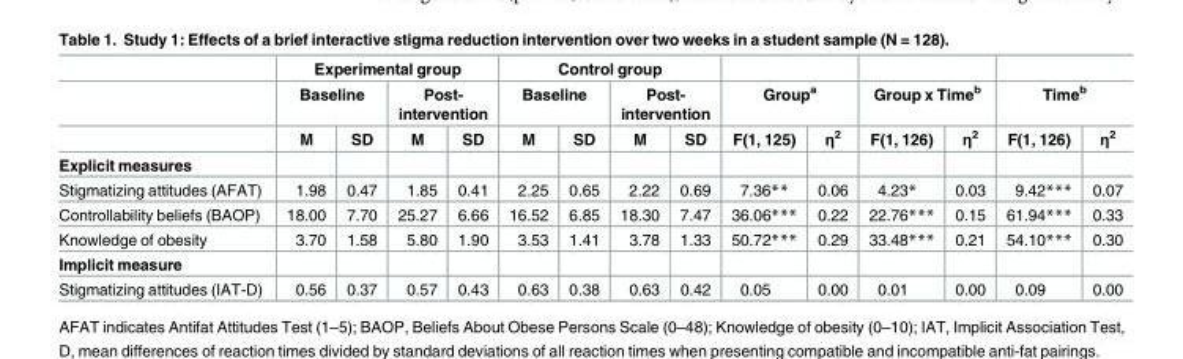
<table><thead><tr><td rowspan="3"></td><td colspan="4">Experimental group</td><td colspan="4">Control group</td><td></td><td></td><td></td><td></td><td></td><td></td></tr><tr><td colspan="2">Baseline</td><td colspan="2">Post- intervention</td><td colspan="2">Baseline</td><td colspan="2">Post- intervention</td><td colspan="2">Group<sup>a</sup></td><td colspan="2">Group x Time<sup>b</sup></td><td colspan="2">Time<sup>b</sup></td></tr><tr><td>M</td><td>SD</td><td>M</td><td>SD</td><td>M</td><td>SD</td><td>M</td><td>SD</td><td>F(1, 125)</td><td>η<sup>2</sup></td><td>F(1, 126)</td><td>η<sup>2</sup></td><td>F(1, 126)</td><td>η<sup>2</sup></td></tr></thead><tbody><tr><td colspan="15">Explicit measures</td></tr><tr><td>Stigmatizing attitudes (AFAT)</td><td>1.98</td><td>0.47</td><td>1.85</td><td>0.41</td><td>2.25</td><td>0.65</td><td>2.22</td><td>0.69</td><td>7.36**</td><td>0.06</td><td>4.23*</td><td>0.03</td><td>9.42***</td><td>0.07</td></tr><tr><td>Controllability beliefs (BAOP)</td><td>18.00</td><td>7.70</td><td>25.27</td><td>6.66</td><td>16.52</td><td>6.85</td><td>18.30</td><td>7.47</td><td>36.06***</td><td>0.22</td><td>22.76***</td><td>0.15</td><td>61.94***</td><td>0.33</td></tr><tr><td>Knowledge of obesity</td><td>3.70</td><td>1.58</td><td>5.80</td><td>1.90</td><td>3.53</td><td>1.41</td><td>3.78</td><td>1.33</td><td>50.72***</td><td>0.29</td><td>33.48***</td><td>0.21</td><td>54.10***</td><td>0.30</td></tr><tr><td colspan="15">Implicit measure</td></tr><tr><td>Stigmatizing attitudes (IAT-D)</td><td>0.56</td><td>0.37</td><td>0.57</td><td>0.43</td><td>0.63</td><td>0.38</td><td>0.63</td><td>0.42</td><td>0.05</td><td>0.00</td><td>0.01</td><td>0.00</td><td>0.09</td><td>0.00</td></tr></tbody></table>